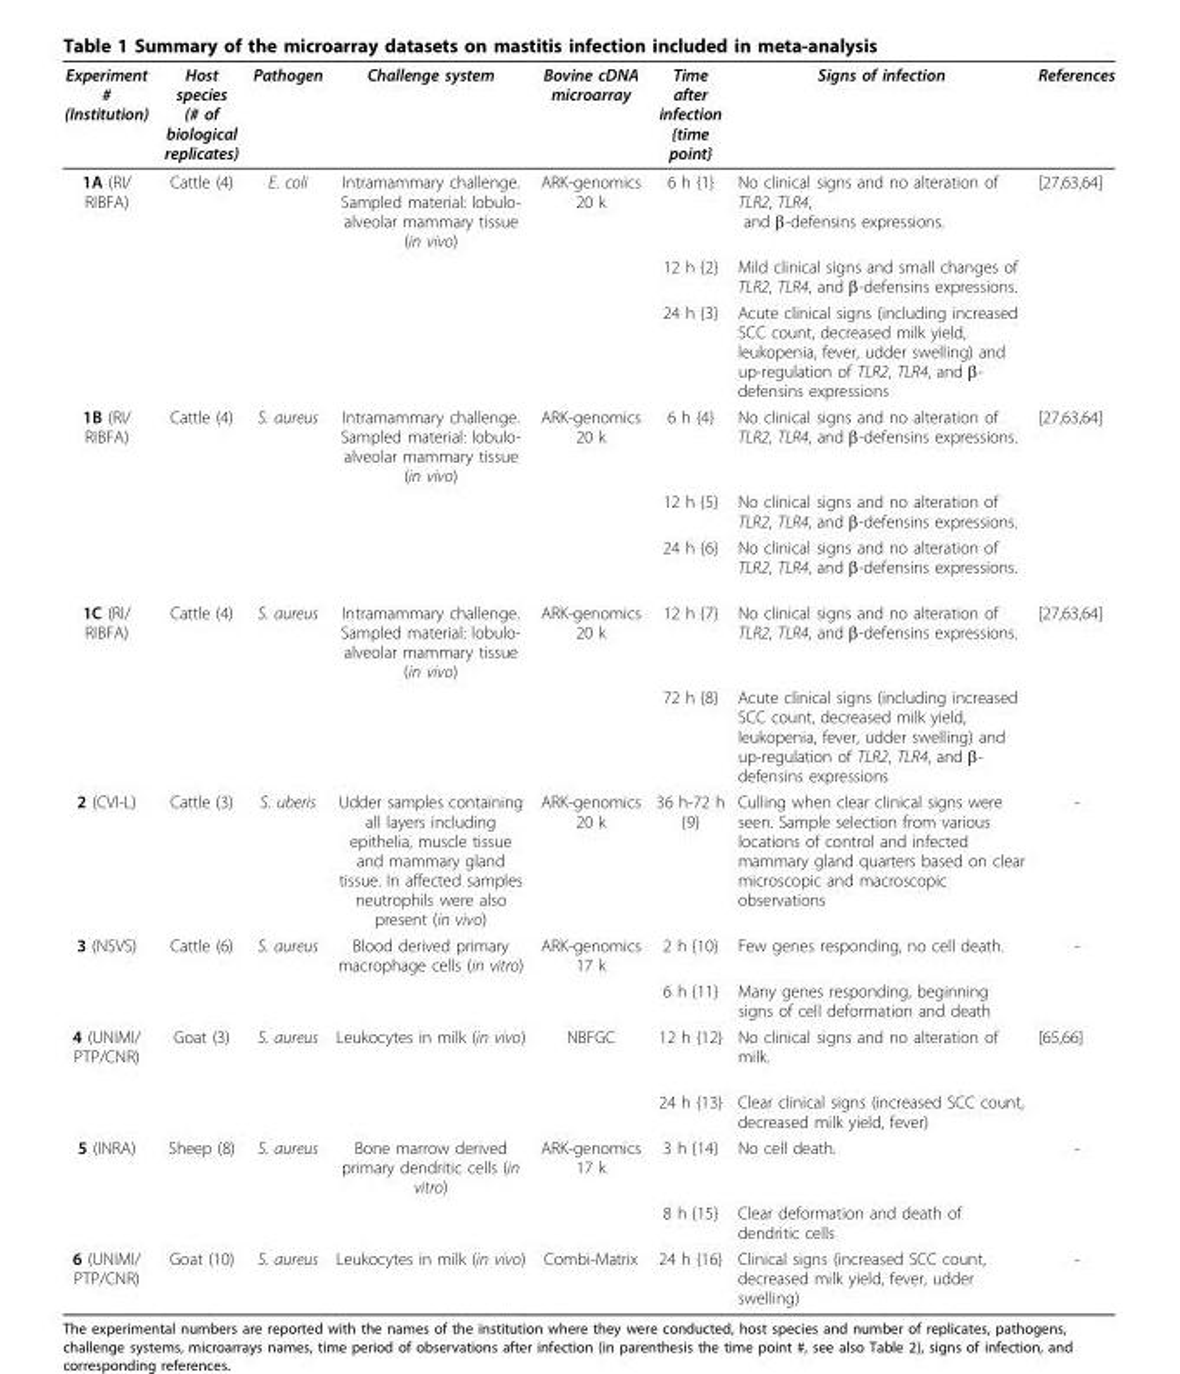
<table><thead><tr><td>Experiment # (Institution)</td><td>Host species (# of biological replicates)</td><td>Pathogen</td><td>Challenge system</td><td>Bovine cDNA microarray</td><td>Time after infection {time point}</td><td>Signs of infection</td><td>References</td></tr></thead><tbody><tr><td rowspan="3">1A (RI/ RIBFA)</td><td>Cattle (4)</td><td>E. coli</td><td>Intramammary challenge. Sampled material: lobulo- alveolar mammary tissue (in vivo)</td><td>ARK-genomics 20 k</td><td>6 h {1}</td><td>No clinical signs and no alteration of TLR2, TLR4, and β-defensins expressions.</td><td>[27,63,64]</td></tr><tr><td></td><td></td><td></td><td></td><td>12 h {2}</td><td>Mild clinical signs and small changes of TLR2, TLR4, and β-defensins expressions.</td><td></td></tr><tr><td></td><td></td><td></td><td></td><td>24 h {3}</td><td>Acute clinical signs (including increased SCC count, decreased milk yield, leukopenia, fever, udder swelling) and up-regulation of TLR2, TLR4, and β- defensins expressions</td><td></td></tr><tr><td rowspan="3">1B (RI/ RIBFA)</td><td>Cattle (4)</td><td>S. aureus</td><td>Intramammary challenge. Sampled material: lobulo- alveolar mammary tissue (in vivo)</td><td>ARK-genomics 20 k</td><td>6 h {4}</td><td>No clinical signs and no alteration of TLR2, TLR4, and β-defensins expressions.</td><td>[27,63,64]</td></tr><tr><td></td><td></td><td></td><td></td><td>12 h {5}</td><td>No clinical signs and no alteration of TLR2, TLR4, and β-defensins expressions.</td><td></td></tr><tr><td></td><td></td><td></td><td></td><td>24 h {6}</td><td>No clinical signs and no alteration of TLR2, TLR4, and β-defensins expressions.</td><td></td></tr><tr><td rowspan="2">1C (RI/ RIBFA)</td><td>Cattle (4)</td><td>S. aureus</td><td>Intramammary challenge. Sampled material: lobulo- alveolar mammary tissue (in vivo)</td><td>ARK-genomics 20 k</td><td>12 h {7}</td><td>No clinical signs and no alteration of TLR2, TLR4, and β-defensins expressions.</td><td>[27,63,64]</td></tr><tr><td></td><td></td><td></td><td></td><td>72 h {8}</td><td>Acute clinical signs (including increased SCC count, decreased milk yield, leukopenia, fever, udder swelling) and up-regulation of TLR2, TLR4, and β- defensins expressions</td><td></td></tr><tr><td>2 (CVI-L)</td><td>Cattle (3)</td><td>S. uberis</td><td>Udder samples containing all layers including epithelia, muscle tissue and mammary gland tissue. In affected samples neutrophils were also present (in vivo)</td><td>ARK-genomics 20 k</td><td>36 h-72 h {9}</td><td>Culling when clear clinical signs were seen. Sample selection from various locations of control and infected mammary gland quarters based on clear microscopic and macroscopic observations</td><td>-</td></tr><tr><td rowspan="2">3 (NSVS)</td><td>Cattle (6)</td><td>S. aureus</td><td>Blood derived primary macrophage cells (in vitro)</td><td>ARK-genomics 17 k</td><td>2 h {10}</td><td>Few genes responding, no cell death.</td><td>-</td></tr><tr><td></td><td></td><td></td><td></td><td>6 h {11}</td><td>Many genes responding, beginning signs of cell deformation and death</td><td></td></tr><tr><td rowspan="2">4 (UNIMI/ PTP/CNR)</td><td>Goat (3)</td><td>S. aureus</td><td>Leukocytes in milk (in vivo)</td><td>NBFGC</td><td>12 h {12}</td><td>No clinical signs and no alteration of milk.</td><td>[65,66]</td></tr><tr><td></td><td></td><td></td><td></td><td>24 h {13}</td><td>Clear clinical signs (increased SCC count, decreased milk yield, fever)</td><td></td></tr><tr><td rowspan="2">5 (INRA)</td><td>Sheep (8)</td><td>S. aureus</td><td>Bone marrow derived primary dendritic cells (in vitro)</td><td>ARK-genomics 17 k</td><td>3 h {14}</td><td>No cell death.</td><td>-</td></tr><tr><td></td><td></td><td></td><td></td><td>8 h {15}</td><td>Clear deformation and death of dendritic cells</td><td></td></tr><tr><td>6 (UNIMI/ PTP/CNR)</td><td>Goat (10)</td><td>S. aureus</td><td>Leukocytes in milk (in vivo)</td><td>Combi-Matrix</td><td>24 h {16}</td><td>Clinical signs (increased SCC count, decreased milk yield, fever, udder swelling)</td><td>-</td></tr></tbody></table>